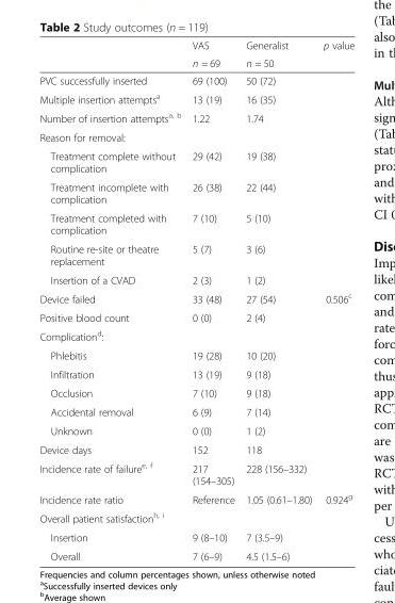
<table><thead><tr><td rowspan="2"></td><td rowspan="2">VAS n = 69</td><td rowspan="2">Generalist n = 50</td><td rowspan="2">p value</td></tr><tr></tr></thead><tbody><tr><td>PVC successfully inserted</td><td>69 (100)</td><td>50 (72)</td><td></td></tr><tr><td>Multiple insertion attempts<sup>a</sup></td><td>13 (19)</td><td>16 (35)</td><td></td></tr><tr><td>Number of insertion attempts<sup>a, b</sup></td><td>1.22</td><td>1.74</td><td></td></tr><tr><td colspan="4">Reason for removal:</td></tr><tr><td>Treatment complete without complication</td><td>29 (42)</td><td>19 (38)</td><td></td></tr><tr><td>Treatment incomplete with complication</td><td>26 (38)</td><td>22 (44)</td><td></td></tr><tr><td>Treatment completed with complication</td><td>7 (10)</td><td>5 (10)</td><td></td></tr><tr><td>Routine re-site or theatre replacement</td><td>5 (7)</td><td>3 (6)</td><td></td></tr><tr><td>Insertion of a CVAD</td><td>2 (3)</td><td>1 (2)</td><td></td></tr><tr><td>Device failed</td><td>33 (48)</td><td>27 (54)</td><td>0.506<sup>c</sup></td></tr><tr><td>Positive blood count</td><td>0 (0)</td><td>2 (4)</td><td></td></tr><tr><td colspan="4">Complication<sup>d</sup>:</td></tr><tr><td>Phlebitis</td><td>19 (28)</td><td>10 (20)</td><td></td></tr><tr><td>Infiltration</td><td>13 (19)</td><td>9 (18)</td><td></td></tr><tr><td>Occlusion</td><td>7 (10)</td><td>9 (18)</td><td></td></tr><tr><td>Accidental removal</td><td>6 (9)</td><td>7 (14)</td><td></td></tr><tr><td>Unknown</td><td>0 (0)</td><td>1 (2)</td><td></td></tr><tr><td>Device days</td><td>152</td><td>118</td><td></td></tr><tr><td>Incidence rate of failure<sup>e, f</sup></td><td>217 (154–305)</td><td>228 (156–332)</td><td></td></tr><tr><td>Incidence rate ratio</td><td>Reference</td><td>1.05 (0.61–1.80)</td><td>0.924<sup>g</sup></td></tr><tr><td colspan="4">Overall patient satisfaction<sup>h, i</sup></td></tr><tr><td>Insertion</td><td>9 (8–10)</td><td>7 (3.5–9)</td><td></td></tr><tr><td>Overall</td><td>7 (6–9)</td><td>4.5 (1.5–6)</td><td></td></tr></tbody></table>